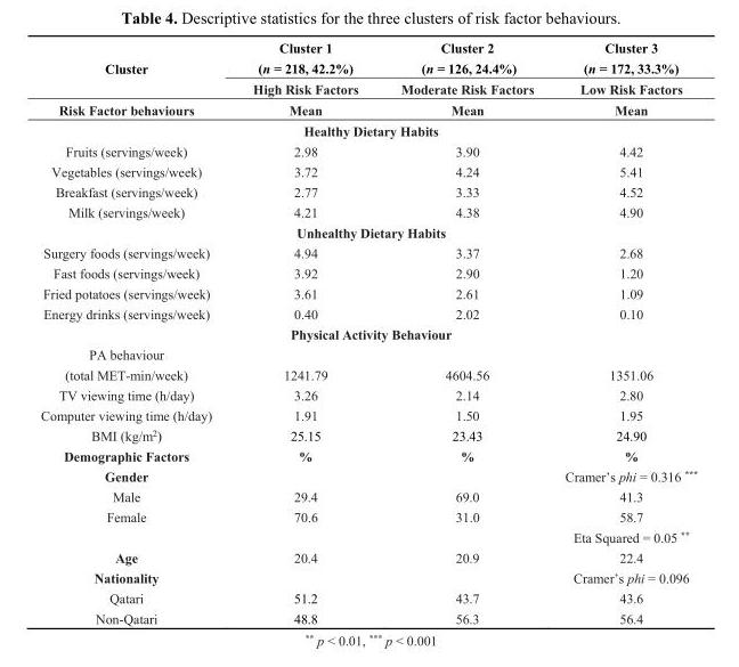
<table><thead><tr><td rowspan="3">Cluster Risk Factor behaviours</td><td rowspan="3">Cluster 1 (n = 218, 42.2%) High Risk Factors Mean</td><td rowspan="3">Cluster 2 (n = 126, 24.4%) Moderate Risk Factors Mean</td><td rowspan="3">Cluster 3 (n = 172, 33.3%) Low Risk Factors Mean</td></tr><tr></tr><tr></tr></thead><tbody><tr><td colspan="4">Healthy Dietary Habits</td></tr><tr><td>Fruits (servings/week)</td><td>2.98</td><td>3.90</td><td>4.42</td></tr><tr><td>Vegetables (servings/week)</td><td>3.72</td><td>4.24</td><td>5.41</td></tr><tr><td>Breakfast (servings/week)</td><td>2.77</td><td>3.33</td><td>4.52</td></tr><tr><td>Milk (servings/week)</td><td>4.21</td><td>4.38</td><td>4.90</td></tr><tr><td colspan="4">Unhealthy Dietary Habits</td></tr><tr><td>Surgery foods (servings/week)</td><td>4.94</td><td>3.37</td><td>2.68</td></tr><tr><td>Fast foods (servings/week)</td><td>3.92</td><td>2.90</td><td>1.20</td></tr><tr><td>Fried potatoes (servings/week)</td><td>3.61</td><td>2.61</td><td>1.09</td></tr><tr><td>Energy drinks (servings/week)</td><td>0.40</td><td>2.02</td><td>0.10</td></tr><tr><td colspan="4">Physical Activity Behaviour</td></tr><tr><td colspan="4">PA behaviour</td></tr><tr><td>(total MET-min/week)</td><td>1241.79</td><td>4604.56</td><td>1351.06</td></tr><tr><td>TV viewing time (h/day)</td><td>3.26</td><td>2.14</td><td>2.80</td></tr><tr><td>Computer viewing time (h/day)</td><td>1.91</td><td>1.50</td><td>1.95</td></tr><tr><td>BMI (kg/m<sup>2</sup>)</td><td>25.15</td><td>23.43</td><td>24.90</td></tr><tr><td>Demographic Factors</td><td>%</td><td>%</td><td>%</td></tr><tr><td>Gender</td><td></td><td></td><td>Cramer’s phi = 0.316 ***</td></tr><tr><td>Male</td><td>29.4</td><td>69.0</td><td>41.3</td></tr><tr><td rowspan="2">Female</td><td>70.6</td><td>31.0</td><td>58.7</td></tr><tr><td></td><td></td><td>Eta Squared = 0.05 **</td></tr><tr><td>Age</td><td>20.4</td><td>20.9</td><td>22.4</td></tr><tr><td>Nationality</td><td></td><td></td><td>Cramer’s phi = 0.096</td></tr><tr><td>Qatari</td><td>51.2</td><td>43.7</td><td>43.6</td></tr><tr><td>Non-Qatari</td><td>48.8</td><td>56.3</td><td>56.4</td></tr></tbody></table>